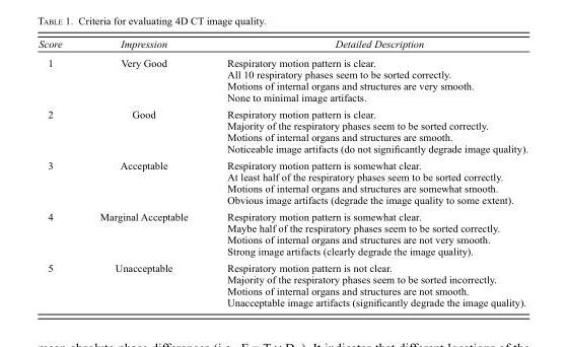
<table><thead><tr><td>Score</td><td>Impression</td><td>Detailed Description</td></tr></thead><tbody><tr><td rowspan="4">1</td><td>Very Good</td><td>Respiratory motion pattern is clear.</td></tr><tr><td></td><td>All 10 respiratory phases seem to be sorted correctly.</td></tr><tr><td></td><td>Motions of internal organs and structures are very smooth.</td></tr><tr><td></td><td>None to minimal image artifacts.</td></tr><tr><td rowspan="4">2</td><td>Good</td><td>Respiratory motion pattern is clear.</td></tr><tr><td></td><td>Majority of the respiratory phases seem to be sorted correctly.</td></tr><tr><td></td><td>Motions of internal organs and structures are smooth.</td></tr><tr><td></td><td>Noticeable image artifacts (do not significantly degrade image quality).</td></tr><tr><td rowspan="4">3</td><td>Acceptable</td><td>Respiratory motion pattern is somewhat clear.</td></tr><tr><td></td><td>At least half of the respiratory phases seem to be sorted correctly.</td></tr><tr><td></td><td>Motions of internal organs and structures are somewhat smooth.</td></tr><tr><td></td><td>Obvious image artifacts (degrade the image quality to some extent).</td></tr><tr><td rowspan="4">4</td><td>Marginal Acceptable</td><td>Respiratory motion pattern is somewhat clear.</td></tr><tr><td></td><td>Maybe half of the respiratory phases seem to be sorted correctly.</td></tr><tr><td></td><td>Motions of internal organs and structures are not very smooth.</td></tr><tr><td></td><td>Strong image artifacts (clearly degrade the image quality).</td></tr><tr><td rowspan="4">5</td><td>Unacceptable</td><td>Respiratory motion pattern is not clear.</td></tr><tr><td></td><td>Majority of the respiratory phases seem to be sorted incorrectly.</td></tr><tr><td></td><td>Motions of internal organs and structures are not smooth.</td></tr><tr><td></td><td>Unacceptable image artifacts (significantly degrade the image quality).</td></tr></tbody></table>